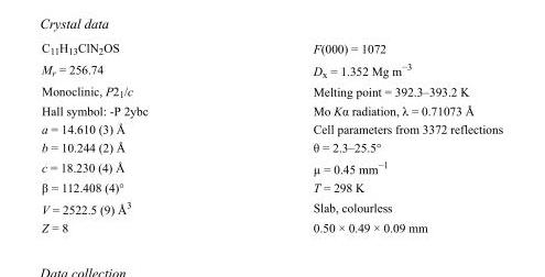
<table><tbody><tr><td>C<sub>11</sub>H<sub>13</sub>ClN<sub>2</sub>OS</td><td>F(000) = 1072</td></tr><tr><td>M<sub>r</sub> = 256.74</td><td>D<sub>x</sub> = 1.352 Mg m<sup>−3</sup></td></tr><tr><td>Monoclinic, P2<sub>1</sub>/c</td><td>Melting point = 392.3–393.2 K</td></tr><tr><td>Hall symbol: -P 2ybc</td><td>Mo Kα radiation, λ = 0.71073 Å</td></tr><tr><td>a = 14.610 (3) Å</td><td>Cell parameters from 3372 reflections</td></tr><tr><td>b = 10.244 (2) Å</td><td>θ = 2.3–25.5°</td></tr><tr><td>c = 18.230 (4) Å</td><td>µ = 0.45 mm<sup>−1</sup></td></tr><tr><td>β = 112.408 (4)°</td><td>T = 298 K</td></tr><tr><td>V = 2522.5 (9) Å<sup>3</sup></td><td>Slab, colourless</td></tr><tr><td>Z = 8</td><td>0.50 × 0.49 × 0.09 mm</td></tr></tbody></table>